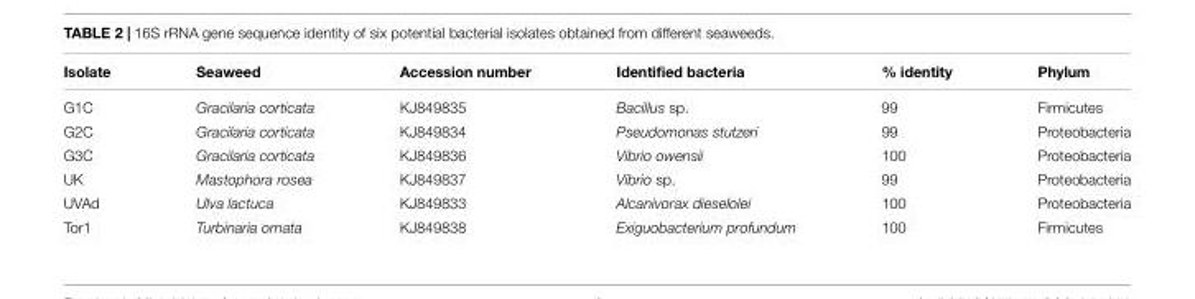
<table><thead><tr><td>Isolate</td><td>Seaweed</td><td>Accession number</td><td>Identified bacteria</td><td>% identity</td><td>Phylum</td></tr></thead><tbody><tr><td>G1C</td><td>Gracilaria corticata</td><td>KJ849835</td><td>Bacillus sp.</td><td>99</td><td>Firmicutes</td></tr><tr><td>G2C</td><td>Gracilaria corticata</td><td>KJ849834</td><td>Pseudomonas stutzeri</td><td>99</td><td>Proteobacteria</td></tr><tr><td>G3C</td><td>Gracilaria corticata</td><td>KJ849836</td><td>Vibrio owensii</td><td>100</td><td>Proteobacteria</td></tr><tr><td>UK</td><td>Mastophora rosea</td><td>KJ849837</td><td>Vibrio sp.</td><td>99</td><td>Proteobacteria</td></tr><tr><td>UVAd</td><td>Ulva lactuca</td><td>KJ849833</td><td>Alcanivorax dieselolei</td><td>100</td><td>Proteobacteria</td></tr><tr><td>Tor1</td><td>Turbinaria ornata</td><td>KJ849838</td><td>Exiguobacterium profundum</td><td>100</td><td>Firmicutes</td></tr></tbody></table>